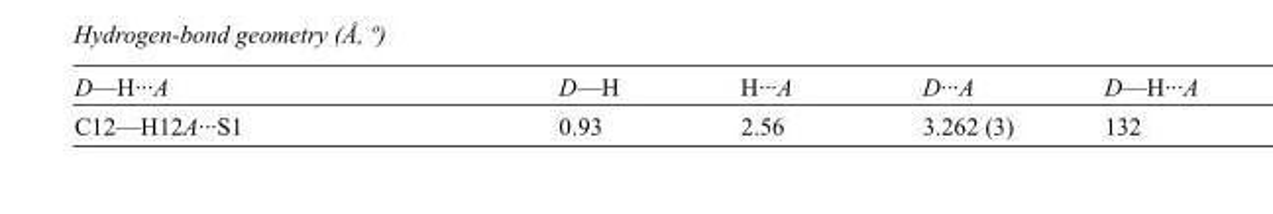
<table><tbody><tr><td>D—H···A</td><td>D—H</td><td>H···A</td><td>D···A</td><td>D—H···A</td></tr><tr><td>C12—H12A···S1</td><td>0.93</td><td>2.56</td><td>3.262 (3)</td><td>132</td></tr></tbody></table>